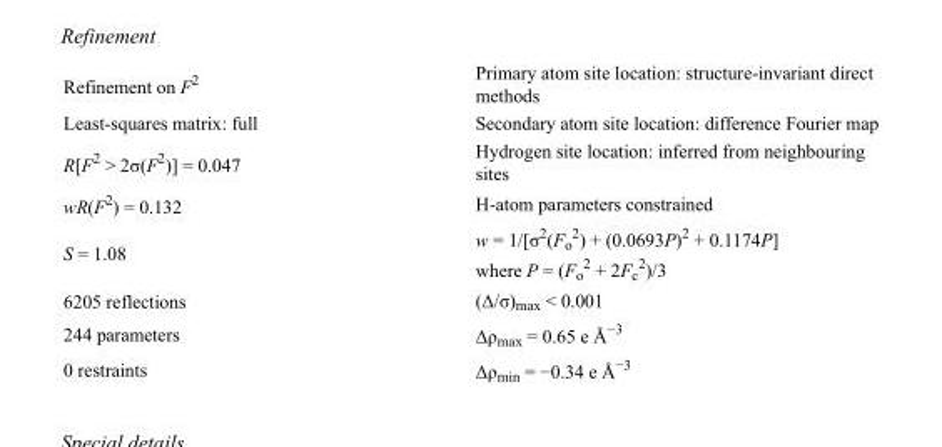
<table><tbody><tr><td>Refinement on F<sup>2</sup></td><td>Primary atom site location: structure-invariant direct methods</td></tr><tr><td>Least-squares matrix: full</td><td>Secondary atom site location: difference Fourier map</td></tr><tr><td>R[F<sup>2</sup> &gt; 2σ(F<sup>2</sup>)] = 0.047</td><td>Hydrogen site location: inferred from neighbouring sites</td></tr><tr><td>wR(F<sup>2</sup>) = 0.132</td><td>H-atom parameters constrained</td></tr><tr><td>S = 1.08</td><td>w = 1/[σ<sup>2</sup>(F<sub>o</sub> <sup>2</sup>) + (0.0693P)<sup>2</sup> + 0.1174P] where P = (F<sub>o</sub> <sup>2</sup> + 2F<sub>c</sub> <sup>2</sup>)/3</td></tr><tr><td>6205 reflections</td><td>(Δ/σ)<sub>max</sub> &lt; 0.001</td></tr><tr><td>244 parameters</td><td>Δρ<sub>max</sub> = 0.65 e Å<sup>−3</sup></td></tr><tr><td>0 restraints</td><td>Δρ<sub>min</sub> = −0.34 e Å<sup>−3</sup></td></tr></tbody></table>